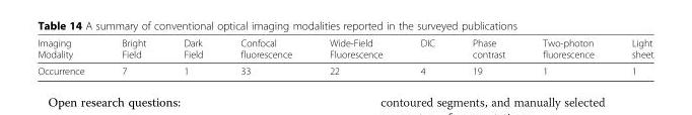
<table><thead><tr><td>Imaging Modality</td><td>Bright Field</td><td>Dark Field</td><td>Confocal fluorescence</td><td>Wide-Field Fluorescence</td><td>DIC</td><td>Phase contrast</td><td>Two-photon fluorescence</td><td>Light sheet</td></tr></thead><tbody><tr><td>Occurrence</td><td>7</td><td>1</td><td>33</td><td>22</td><td>4</td><td>19</td><td>1</td><td>1</td></tr></tbody></table>